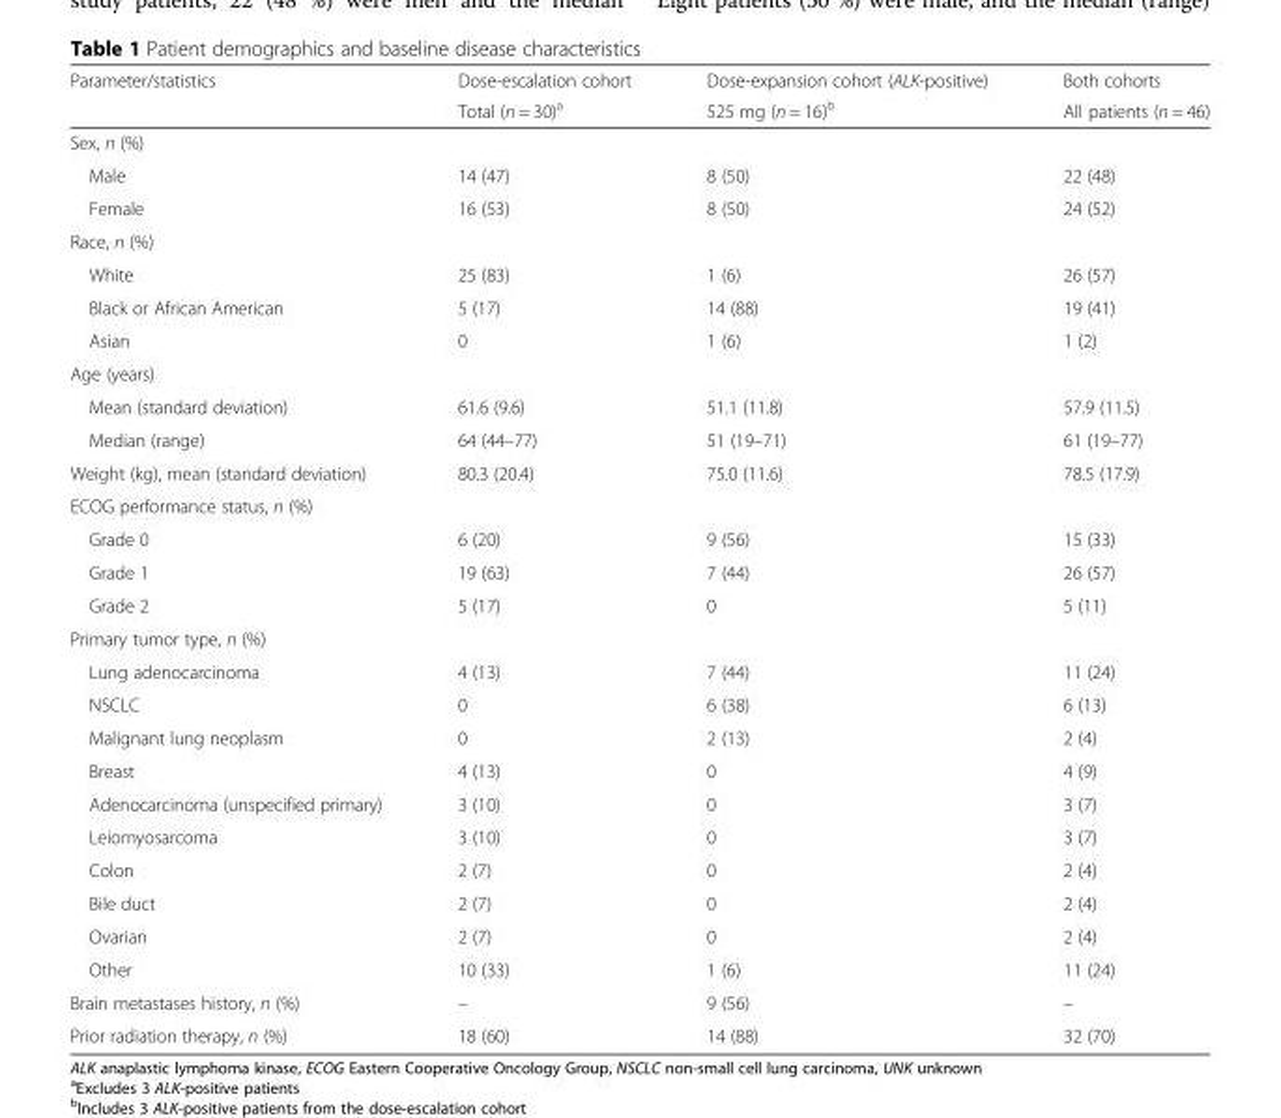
<table><thead><tr><td rowspan="2">Parameter/statistics</td><td rowspan="2">Dose-escalation cohort Total (n = 30)<sup>a</sup></td><td rowspan="2">Dose-expansion cohort (ALK-positive) 525 mg (n = 16)<sup>b</sup></td><td rowspan="2">Both cohorts All patients (n = 46)</td></tr><tr></tr></thead><tbody><tr><td colspan="4">Sex, n (%)</td></tr><tr><td>Male</td><td>14 (47)</td><td>8 (50)</td><td>22 (48)</td></tr><tr><td>Female</td><td>16 (53)</td><td>8 (50)</td><td>24 (52)</td></tr><tr><td colspan="4">Race, n (%)</td></tr><tr><td>White</td><td>25 (83)</td><td>1 (6)</td><td>26 (57)</td></tr><tr><td>Black or African American</td><td>5 (17)</td><td>14 (88)</td><td>19 (41)</td></tr><tr><td>Asian</td><td>0</td><td>1 (6)</td><td>1 (2)</td></tr><tr><td colspan="4">Age (years)</td></tr><tr><td>Mean (standard deviation)</td><td>61.6 (9.6)</td><td>51.1 (11.8)</td><td>57.9 (11.5)</td></tr><tr><td>Median (range)</td><td>64 (44–77)</td><td>51 (19–71)</td><td>61 (19–77)</td></tr><tr><td>Weight (kg), mean (standard deviation)</td><td>80.3 (20.4)</td><td>75.0 (11.6)</td><td>78.5 (17.9)</td></tr><tr><td colspan="4">ECOG performance status, n (%)</td></tr><tr><td>Grade 0</td><td>6 (20)</td><td>9 (56)</td><td>15 (33)</td></tr><tr><td>Grade 1</td><td>19 (63)</td><td>7 (44)</td><td>26 (57)</td></tr><tr><td>Grade 2</td><td>5 (17)</td><td>0</td><td>5 (11)</td></tr><tr><td colspan="4">Primary tumor type, n (%)</td></tr><tr><td>Lung adenocarcinoma</td><td>4 (13)</td><td>7 (44)</td><td>11 (24)</td></tr><tr><td>NSCLC</td><td>0</td><td>6 (38)</td><td>6 (13)</td></tr><tr><td>Malignant lung neoplasm</td><td>0</td><td>2 (13)</td><td>2 (4)</td></tr><tr><td>Breast</td><td>4 (13)</td><td>0</td><td>4 (9)</td></tr><tr><td>Adenocarcinoma (unspecified primary)</td><td>3 (10)</td><td>0</td><td>3 (7)</td></tr><tr><td>Leiomyosarcoma</td><td>3 (10)</td><td>0</td><td>3 (7)</td></tr><tr><td>Colon</td><td>2 (7)</td><td>0</td><td>2 (4)</td></tr><tr><td>Bile duct</td><td>2 (7)</td><td>0</td><td>2 (4)</td></tr><tr><td>Ovarian</td><td>2 (7)</td><td>0</td><td>2 (4)</td></tr><tr><td>Other</td><td>10 (33)</td><td>1 (6)</td><td>11 (24)</td></tr><tr><td>Brain metastases history, n (%)</td><td>–</td><td>9 (56)</td><td>–</td></tr><tr><td>Prior radiation therapy, n (%)</td><td>18 (60)</td><td>14 (88)</td><td>32 (70)</td></tr></tbody></table>